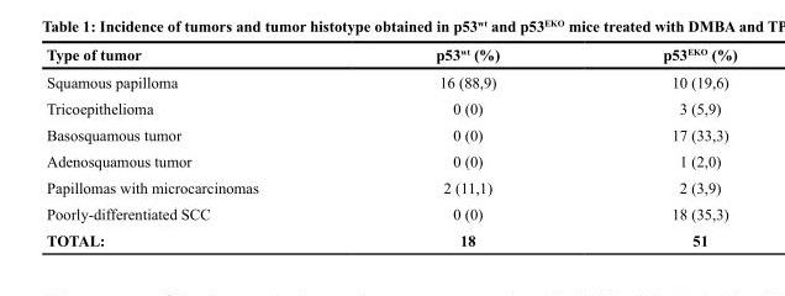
<table><thead><tr><td>Type of tumor</td><td>p53<sup>wt</sup> (%)</td><td>p53<sup>EKO</sup> (%)</td></tr></thead><tbody><tr><td>Squamous papilloma</td><td>16 (88,9)</td><td>10 (19,6)</td></tr><tr><td>Tricoepithelioma</td><td>0 (0)</td><td>3 (5,9)</td></tr><tr><td>Basosquamous tumor</td><td>0 (0)</td><td>17 (33,3)</td></tr><tr><td>Adenosquamous tumor</td><td>0 (0)</td><td>1 (2,0)</td></tr><tr><td>Papillomas with microcarcinomas</td><td>2 (11,1)</td><td>2 (3,9)</td></tr><tr><td>Poorly-differentiated SCC</td><td>0 (0)</td><td>18 (35,3)</td></tr><tr><td>TOTAL:</td><td>18</td><td>51</td></tr></tbody></table>